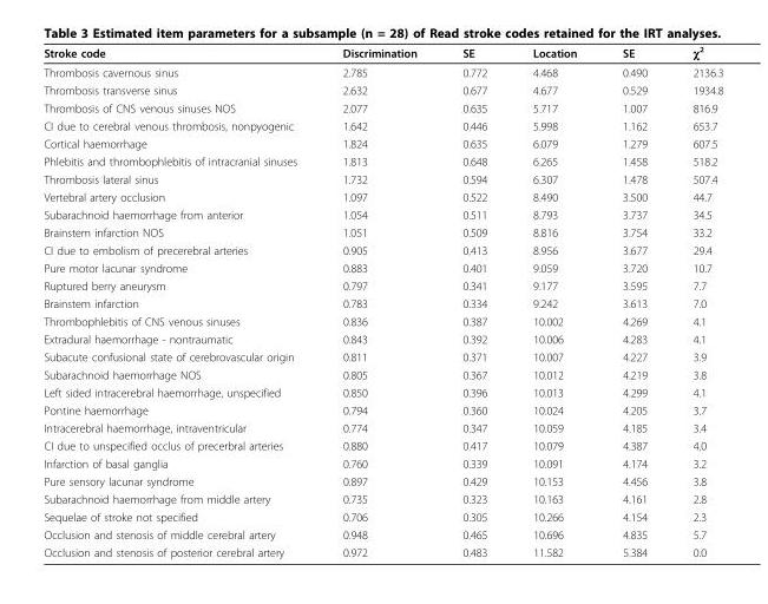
<table><thead><tr><td>Stroke code</td><td>Discrimination</td><td>SE</td><td>Location</td><td>SE</td><td>χ<sup>2</sup></td></tr></thead><tbody><tr><td>Thrombosis cavernous sinus</td><td>2.785</td><td>0.772</td><td>4.468</td><td>0.490</td><td>2136.3</td></tr><tr><td>Thrombosis transverse sinus</td><td>2.632</td><td>0.677</td><td>4.677</td><td>0.529</td><td>1934.8</td></tr><tr><td>Thrombosis of CNS venous sinuses NOS</td><td>2.077</td><td>0.635</td><td>5.717</td><td>1.007</td><td>816.9</td></tr><tr><td>CI due to cerebral venous thrombosis, nonpyogenic</td><td>1.642</td><td>0.446</td><td>5.998</td><td>1.162</td><td>653.7</td></tr><tr><td>Cortical haemorrhage</td><td>1.824</td><td>0.635</td><td>6.079</td><td>1.279</td><td>607.5</td></tr><tr><td>Phlebitis and thrombophlebitis of intracranial sinuses</td><td>1.813</td><td>0.648</td><td>6.265</td><td>1.458</td><td>518.2</td></tr><tr><td>Thrombosis lateral sinus</td><td>1.732</td><td>0.594</td><td>6.307</td><td>1.478</td><td>507.4</td></tr><tr><td>Vertebral artery occlusion</td><td>1.097</td><td>0.522</td><td>8.490</td><td>3.500</td><td>44.7</td></tr><tr><td>Subarachnoid haemorrhage from anterior</td><td>1.054</td><td>0.511</td><td>8.793</td><td>3.737</td><td>34.5</td></tr><tr><td>Brainstem infarction NOS</td><td>1.051</td><td>0.509</td><td>8.816</td><td>3.754</td><td>33.2</td></tr><tr><td>CI due to embolism of precerebral arteries</td><td>0.905</td><td>0.413</td><td>8.956</td><td>3.677</td><td>29.4</td></tr><tr><td>Pure motor lacunar syndrome</td><td>0.883</td><td>0.401</td><td>9.059</td><td>3.720</td><td>10.7</td></tr><tr><td>Ruptured berry aneurysm</td><td>0.797</td><td>0.341</td><td>9.177</td><td>3.595</td><td>7.7</td></tr><tr><td>Brainstem infarction</td><td>0.783</td><td>0.334</td><td>9.242</td><td>3.613</td><td>7.0</td></tr><tr><td>Thrombophlebitis of CNS venous sinuses</td><td>0.836</td><td>0.387</td><td>10.002</td><td>4.269</td><td>4.1</td></tr><tr><td>Extradural haemorrhage - nontraumatic</td><td>0.843</td><td>0.392</td><td>10.006</td><td>4.283</td><td>4.1</td></tr><tr><td>Subacute confusional state of cerebrovascular origin</td><td>0.811</td><td>0.371</td><td>10.007</td><td>4.227</td><td>3.9</td></tr><tr><td>Subarachnoid haemorrhage NOS</td><td>0.805</td><td>0.367</td><td>10.012</td><td>4.219</td><td>3.8</td></tr><tr><td>Left sided intracerebral haemorrhage, unspecified</td><td>0.850</td><td>0.396</td><td>10.013</td><td>4.299</td><td>4.1</td></tr><tr><td>Pontine haemorrhage</td><td>0.794</td><td>0.360</td><td>10.024</td><td>4.205</td><td>3.7</td></tr><tr><td>Intracerebral haemorrhage, intraventricular</td><td>0.774</td><td>0.347</td><td>10.059</td><td>4.185</td><td>3.4</td></tr><tr><td>CI due to unspecified occlus of precerbral arteries</td><td>0.880</td><td>0.417</td><td>10.079</td><td>4.387</td><td>4.0</td></tr><tr><td>Infarction of basal ganglia</td><td>0.760</td><td>0.339</td><td>10.091</td><td>4.174</td><td>3.2</td></tr><tr><td>Pure sensory lacunar syndrome</td><td>0.897</td><td>0.429</td><td>10.153</td><td>4.456</td><td>3.8</td></tr><tr><td>Subarachnoid haemorrhage from middle artery</td><td>0.735</td><td>0.323</td><td>10.163</td><td>4.161</td><td>2.8</td></tr><tr><td>Sequelae of stroke not specified</td><td>0.706</td><td>0.305</td><td>10.266</td><td>4.154</td><td>2.3</td></tr><tr><td>Occlusion and stenosis of middle cerebral artery</td><td>0.948</td><td>0.465</td><td>10.696</td><td>4.835</td><td>5.7</td></tr><tr><td>Occlusion and stenosis of posterior cerebral artery</td><td>0.972</td><td>0.483</td><td>11.582</td><td>5.384</td><td>0.0</td></tr></tbody></table>